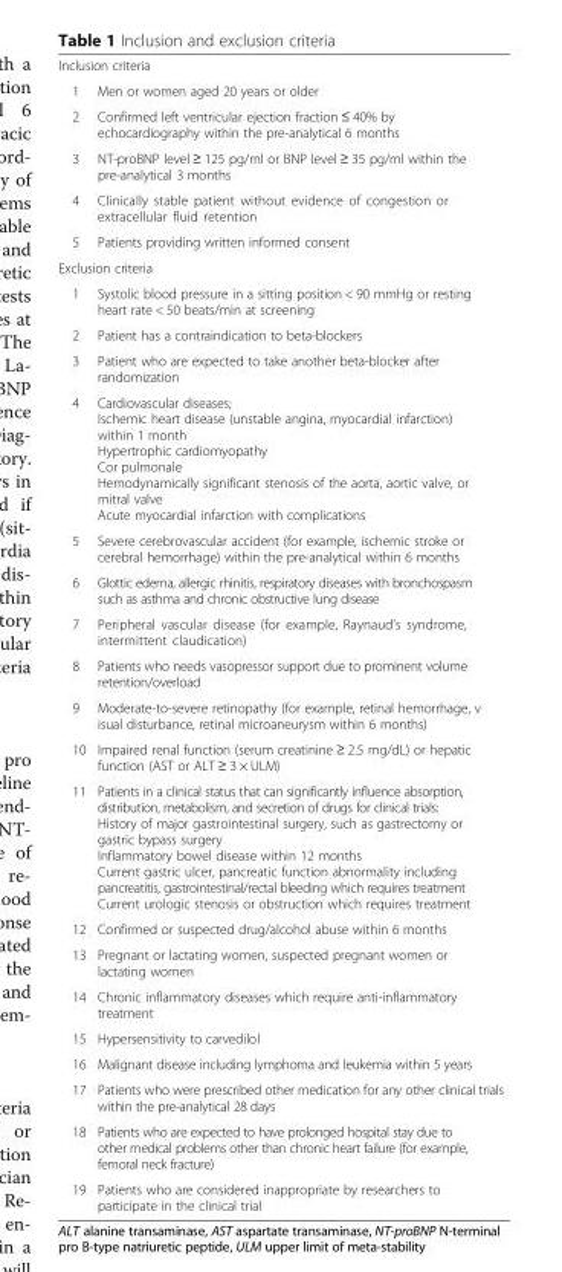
<table><tbody><tr><td colspan="2">Inclusion criteria</td></tr><tr><td>1</td><td>Men or women aged 20 years or older</td></tr><tr><td>2</td><td>Confirmed left ventricular ejection fraction ≤ 40% by echocardiography within the pre-analytical 6 months</td></tr><tr><td>3</td><td>NT-proBNP level ≥ 125 pg/ml or BNP level ≥ 35 pg/ml within the pre-analytical 3 months</td></tr><tr><td>4</td><td>Clinically stable patient without evidence of congestion or extracellular fluid retention</td></tr><tr><td>5</td><td>Patients providing written informed consent</td></tr><tr><td colspan="2">Exclusion criteria</td></tr><tr><td>1</td><td>Systolic blood pressure in a sitting position &lt; 90 mmHg or resting heart rate &lt; 50 beats/min at screening</td></tr><tr><td>2</td><td>Patient has a contraindication to beta-blockers</td></tr><tr><td>3</td><td>Patient who are expected to take another beta-blocker after randomization</td></tr><tr><td>4</td><td>Cardiovascular diseases; Ischemic heart disease (unstable angina, myocardial infarction) within 1 month Hypertrophic cardiomyopathy Cor pulmonale Hemodynamically significant stenosis of the aorta, aortic valve, or mitral valve Acute myocardial infarction with complications</td></tr><tr><td>5</td><td>Severe cerebrovascular accident (for example, ischemic stroke or cerebral hemorrhage) within the pre-analytical within 6 months</td></tr><tr><td>6</td><td>Glottic edema, allergic rhinitis, respiratory diseases with bronchospasm such as asthma and chronic obstructive lung disease</td></tr><tr><td>7</td><td>Peripheral vascular disease (for example, Raynaud’s syndrome, intermittent claudication)</td></tr><tr><td>8</td><td>Patients who needs vasopressor support due to prominent volume retention/overload</td></tr><tr><td>9</td><td>Moderate-to-severe retinopathy (for example, retinal hemorrhage, v isual disturbance, retinal microaneurysm within 6 months)</td></tr><tr><td>10</td><td>Impaired renal function (serum creatinine ≥ 2.5 mg/dL) or hepatic function (AST or ALT ≥ 3 × ULM)</td></tr><tr><td>11</td><td>Patients in a clinical status that can significantly influence absorption, distribution, metabolism, and secretion of drugs for clinical trials: History of major gastrointestinal surgery, such as gastrectomy or gastric bypass surgery Inflammatory bowel disease within 12 months Current gastric ulcer, pancreatic function abnormality including pancreatitis, gastrointestinal/rectal bleeding which requires treatment Current urologic stenosis or obstruction which requires treatment</td></tr><tr><td>12</td><td>Confirmed or suspected drug/alcohol abuse within 6 months</td></tr><tr><td>13</td><td>Pregnant or lactating women, suspected pregnant women or lactating women</td></tr><tr><td>14</td><td>Chronic inflammatory diseases which require anti-inflammatory treatment</td></tr><tr><td>15</td><td>Hypersensitivity to carvedilol</td></tr><tr><td>16</td><td>Malignant disease including lymphoma and leukemia within 5 years</td></tr><tr><td>17</td><td>Patients who were prescribed other medication for any other clinical trials within the pre-analytical 28 days</td></tr><tr><td>18</td><td>Patients who are expected to have prolonged hospital stay due to other medical problems other than chronic heart failure (for example, femoral neck fracture)</td></tr><tr><td>19</td><td>Patients who are considered inappropriate by researchers to participate in the clinical trial</td></tr></tbody></table>